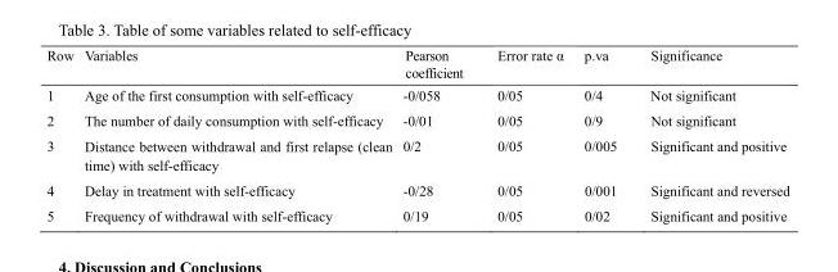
<table><thead><tr><td>Row</td><td>Variables</td><td>Pearson coefficient</td><td>Error rate α</td><td>p.va</td><td>Significance</td></tr></thead><tbody><tr><td>1</td><td>Age of the first consumption with self-efficacy</td><td>-0/058</td><td>0/05</td><td>0/4</td><td>Not significant</td></tr><tr><td>2</td><td>The number of daily consumption with self-efficacy</td><td>-0/01</td><td>0/05</td><td>0/9</td><td>Not significant</td></tr><tr><td>3</td><td>Distance between withdrawal and first relapse (clean time) with self-efficacy</td><td>0/2</td><td>0/05</td><td>0/005</td><td>Significant and positive</td></tr><tr><td>4</td><td>Delay in treatment with self-efficacy</td><td>-0/28</td><td>0/05</td><td>0/001</td><td>Significant and reversed</td></tr><tr><td>5</td><td>Frequency of withdrawal with self-efficacy</td><td>0/19</td><td>0/05</td><td>0/02</td><td>Significant and positive</td></tr></tbody></table>